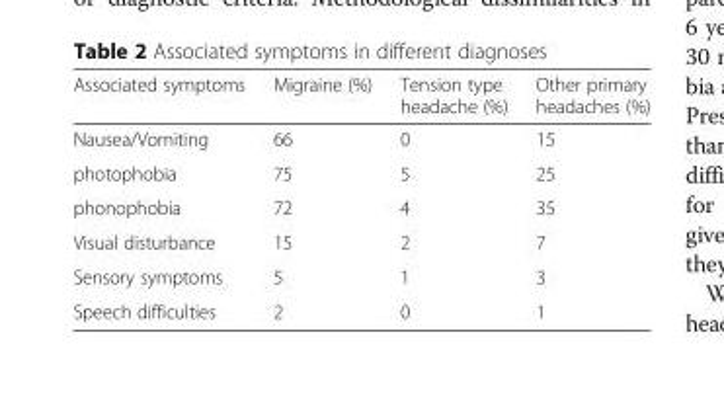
<table><thead><tr><td>Associated symptoms</td><td>Migraine (%)</td><td>Tension type headache (%)</td><td>Other primary headaches (%)</td></tr></thead><tbody><tr><td>Nausea/Vomiting</td><td>66</td><td>0</td><td>15</td></tr><tr><td>photophobia</td><td>75</td><td>5</td><td>25</td></tr><tr><td>phonophobia</td><td>72</td><td>4</td><td>35</td></tr><tr><td>Visual disturbance</td><td>15</td><td>2</td><td>7</td></tr><tr><td>Sensory symptoms</td><td>5</td><td>1</td><td>3</td></tr><tr><td>Speech difficulties</td><td>2</td><td>0</td><td>1</td></tr></tbody></table>